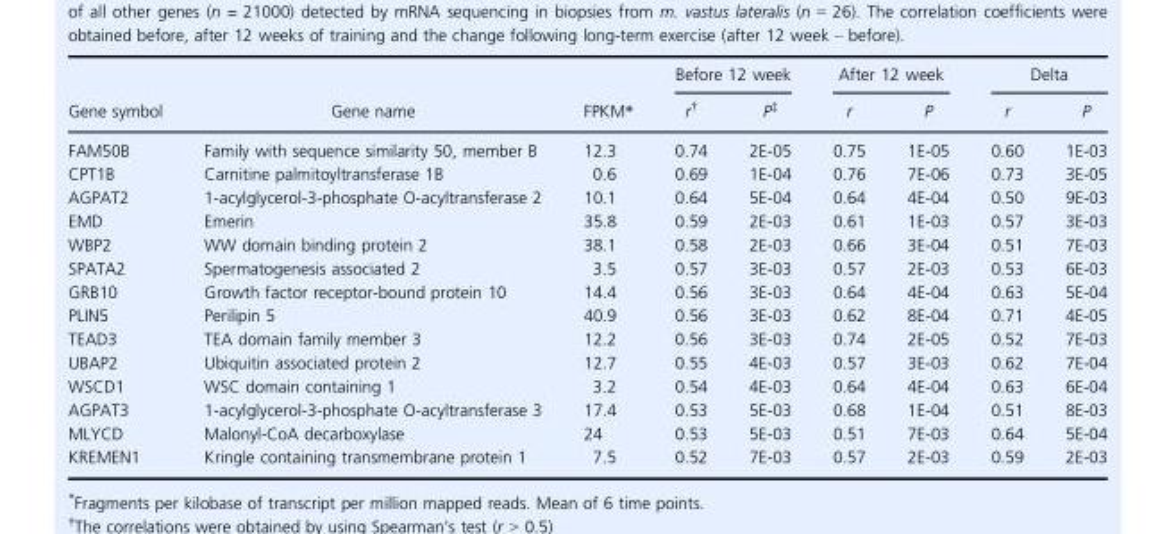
<table><thead><tr><td rowspan="2">Gene symbol</td><td rowspan="2">Gene name</td><td rowspan="2">FPKM*</td><td colspan="2">Before 12 week</td><td colspan="2">After 12 week</td><td colspan="2">Delta</td></tr><tr><td>r†</td><td>P‡</td><td>r</td><td>P</td><td>r</td><td>P</td></tr></thead><tbody><tr><td>FAM50B</td><td>Family with sequence similarity 50, member B</td><td>12.3</td><td>0.74</td><td>2E-05</td><td>0.75</td><td>1E-05</td><td>0.60</td><td>1E-03</td></tr><tr><td>CPT1B</td><td>Carnitine palmitoyltransferase 1B</td><td>0.6</td><td>0.69</td><td>1E-04</td><td>0.76</td><td>7E-06</td><td>0.73</td><td>3E-05</td></tr><tr><td>AGPAT2</td><td>1-acylglycerol-3-phosphate O-acyltransferase 2</td><td>10.1</td><td>0.64</td><td>5E-04</td><td>0.64</td><td>4E-04</td><td>0.50</td><td>9E-03</td></tr><tr><td>EMD</td><td>Emerin</td><td>35.8</td><td>0.59</td><td>2E-03</td><td>0.61</td><td>1E-03</td><td>0.57</td><td>3E-03</td></tr><tr><td>WBP2</td><td>WW domain binding protein 2</td><td>38.1</td><td>0.58</td><td>2E-03</td><td>0.66</td><td>3E-04</td><td>0.51</td><td>7E-03</td></tr><tr><td>SPATA2</td><td>Spermatogenesis associated 2</td><td>3.5</td><td>0.57</td><td>3E-03</td><td>0.57</td><td>2E-03</td><td>0.53</td><td>6E-03</td></tr><tr><td>GRB10</td><td>Growth factor receptor-bound protein 10</td><td>14.4</td><td>0.56</td><td>3E-03</td><td>0.64</td><td>4E-04</td><td>0.63</td><td>5E-04</td></tr><tr><td>PLIN5</td><td>Perilipin 5</td><td>40.9</td><td>0.56</td><td>3E-03</td><td>0.62</td><td>8E-04</td><td>0.71</td><td>4E-05</td></tr><tr><td>TEAD3</td><td>TEA domain family member 3</td><td>12.2</td><td>0.56</td><td>3E-03</td><td>0.74</td><td>2E-05</td><td>0.52</td><td>7E-03</td></tr><tr><td>UBAP2</td><td>Ubiquitin associated protein 2</td><td>12.7</td><td>0.55</td><td>4E-03</td><td>0.57</td><td>3E-03</td><td>0.62</td><td>7E-04</td></tr><tr><td>WSCD1</td><td>WSC domain containing 1</td><td>3.2</td><td>0.54</td><td>4E-03</td><td>0.64</td><td>4E-04</td><td>0.63</td><td>6E-04</td></tr><tr><td>AGPAT3</td><td>1-acylglycerol-3-phosphate O-acyltransferase 3</td><td>17.4</td><td>0.53</td><td>5E-03</td><td>0.68</td><td>1E-04</td><td>0.51</td><td>8E-03</td></tr><tr><td>MLYCD</td><td>Malonyl-CoA decarboxylase</td><td>24</td><td>0.53</td><td>5E-03</td><td>0.51</td><td>7E-03</td><td>0.64</td><td>5E-04</td></tr><tr><td>KREMEN1</td><td>Kringle containing transmembrane protein 1</td><td>7.5</td><td>0.52</td><td>7E-03</td><td>0.57</td><td>2E-03</td><td>0.59</td><td>2E-03</td></tr></tbody></table>